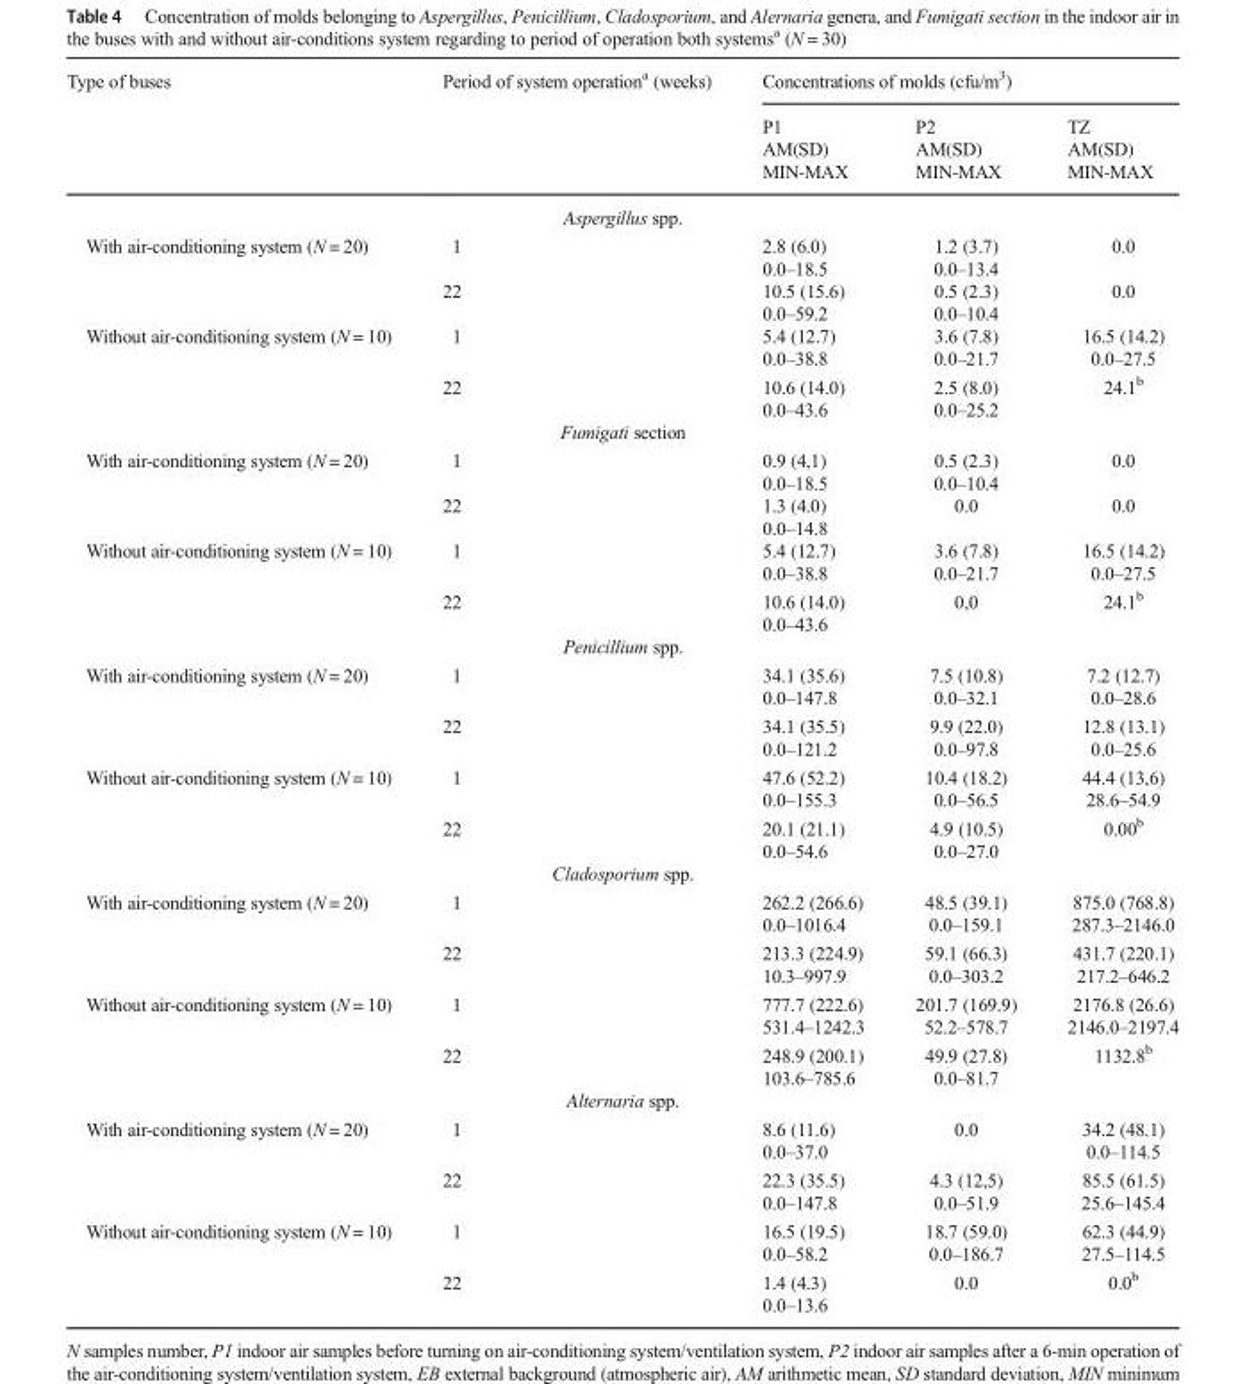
<table><thead><tr><td rowspan="3">Type of buses</td><td rowspan="3">Period of system operation<sup>a</sup> (weeks)</td><td colspan="3">Concentrations of molds (cfu/m<sup>3</sup>)</td></tr><tr><td rowspan="2">P1 AM(SD) MIN-MAX</td><td rowspan="2">P2 AM(SD) MIN-MAX</td><td rowspan="2">TZ AM(SD) MIN-MAX</td></tr><tr></tr></thead><tbody><tr><td colspan="5">Aspergillus spp.</td></tr><tr><td rowspan="2">With air-conditioning system (N = 20)</td><td>1</td><td>2.8 (6.0) 0.0–18.5</td><td>1.2 (3.7) 0.0–13.4</td><td>0.0</td></tr><tr><td>22</td><td>10.5 (15.6) 0.0–59.2</td><td>0.5 (2.3) 0.0–10.4</td><td>0.0</td></tr><tr><td rowspan="2">Without air-conditioning system (N = 10)</td><td>1</td><td>5.4 (12.7) 0.0–38.8</td><td>3.6 (7.8) 0.0–21.7</td><td>16.5 (14.2) 0.0–27.5</td></tr><tr><td>22</td><td>10.6 (14.0) 0.0–43.6</td><td>2.5 (8.0) 0.0–25.2</td><td>24.1<sup>b</sup></td></tr><tr><td colspan="5">Fumigati section</td></tr><tr><td rowspan="2">With air-conditioning system (N = 20)</td><td>1</td><td>0.9 (4,1) 0.0–18.5</td><td>0.5 (2.3) 0.0–10.4</td><td>0.0</td></tr><tr><td>22</td><td>1.3 (4.0) 0.0–14.8</td><td>0.0</td><td>0.0</td></tr><tr><td rowspan="2">Without air-conditioning system (N = 10)</td><td>1</td><td>5.4 (12.7) 0.0–38.8</td><td>3.6 (7.8) 0.0–21.7</td><td>16.5 (14.2) 0.0–27.5</td></tr><tr><td>22</td><td>10.6 (14.0) 0.0–43.6</td><td>0,0</td><td>24.1<sup>b</sup></td></tr><tr><td colspan="5">Penicillium spp.</td></tr><tr><td rowspan="2">With air-conditioning system (N = 20)</td><td>1</td><td>34.1 (35.6) 0.0–147.8</td><td>7.5 (10.8) 0.0–32.1</td><td>7.2 (12.7) 0.0–28.6</td></tr><tr><td>22</td><td>34.1 (35.5) 0.0–121.2</td><td>9.9 (22.0) 0.0–97.8</td><td>12.8 (13.1) 0.0–25.6</td></tr><tr><td rowspan="2">Without air-conditioning system (N = 10)</td><td>1</td><td>47.6 (52.2) 0.0–155.3</td><td>10.4 (18.2) 0.0–56.5</td><td>44.4 (13,6) 28.6–54.9</td></tr><tr><td>22</td><td>20.1 (21.1) 0.0–54.6</td><td>4.9 (10.5) 0.0–27.0</td><td>0.00<sup>b</sup></td></tr><tr><td colspan="5">Cladosporium spp.</td></tr><tr><td rowspan="2">With air-conditioning system (N = 20)</td><td>1</td><td>262.2 (266.6) 0.0–1016.4</td><td>48.5 (39.1) 0.0–159.1</td><td>875.0 (768.8) 287.3–2146.0</td></tr><tr><td>22</td><td>213.3 (224.9) 10.3–997.9</td><td>59.1 (66.3) 0.0–303.2</td><td>431.7 (220.1) 217.2–646.2</td></tr><tr><td rowspan="2">Without air-conditioning system (N = 10)</td><td>1</td><td>777.7 (222.6) 531.4–1242.3</td><td>201.7 (169.9) 52.2–578.7</td><td>2176.8 (26.6) 2146.0–2197.4</td></tr><tr><td>22</td><td>248.9 (200.1) 103.6–785.6</td><td>49.9 (27.8) 0.0–81.7</td><td>1132.8<sup>b</sup></td></tr><tr><td colspan="5">Alternaria spp.</td></tr><tr><td rowspan="2">With air-conditioning system (N = 20)</td><td>1</td><td>8.6 (11.6) 0.0–37.0</td><td>0.0</td><td>34.2 (48.1) 0.0–114.5</td></tr><tr><td>22</td><td>22.3 (35.5) 0.0–147.8</td><td>4.3 (12,5) 0.0–51.9</td><td>85.5 (61.5) 25.6–145.4</td></tr><tr><td rowspan="2">Without air-conditioning system (N = 10)</td><td>1</td><td>16.5 (19.5) 0.0–58.2</td><td>18.7 (59.0) 0.0–186.7</td><td>62.3 (44.9) 27.5–114.5</td></tr><tr><td>22</td><td>1.4 (4.3) 0.0–13.6</td><td>0.0</td><td>0.0<sup>b</sup></td></tr></tbody></table>